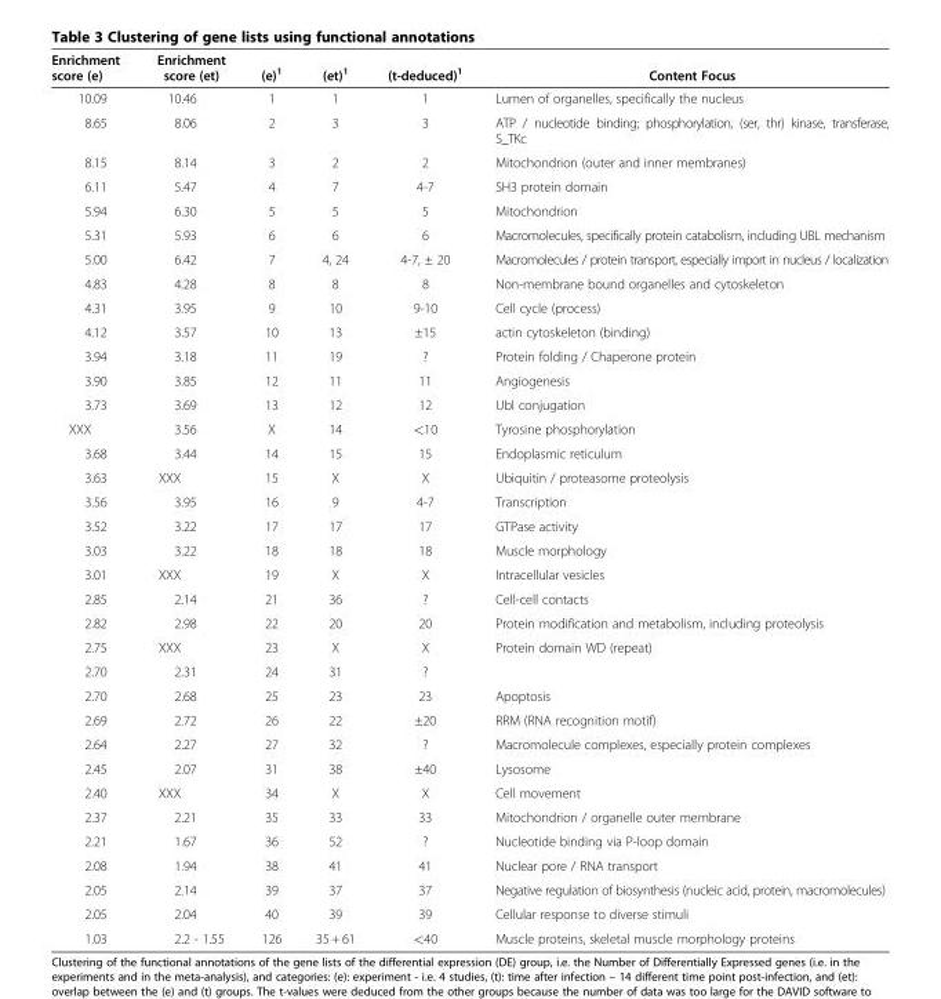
<table><thead><tr><td>Enrichment score (e)</td><td>Enrichment score (et)</td><td>(e)<sup>1</sup></td><td>(et)<sup>1</sup></td><td>(t-deduced)<sup>1</sup></td><td>Content Focus</td></tr></thead><tbody><tr><td>10.09</td><td>10.46</td><td>1</td><td>1</td><td>1</td><td>Lumen of organelles, specifically the nucleus</td></tr><tr><td>8.65</td><td>8.06</td><td>2</td><td>3</td><td>3</td><td>ATP / nucleotide binding; phosphorylation, (ser, thr) kinase, transferase, S_TKc</td></tr><tr><td>8.15</td><td>8.14</td><td>3</td><td>2</td><td>2</td><td>Mitochondrion (outer and inner membranes)</td></tr><tr><td>6.11</td><td>5.47</td><td>4</td><td>7</td><td>4-7</td><td>SH3 protein domain</td></tr><tr><td>5.94</td><td>6.30</td><td>5</td><td>5</td><td>5</td><td>Mitochondrion</td></tr><tr><td>5.31</td><td>5.93</td><td>6</td><td>6</td><td>6</td><td>Macromolecules, specifically protein catabolism, including UBL mechanism</td></tr><tr><td>5.00</td><td>6.42</td><td>7</td><td>4, 24</td><td>4-7, ± 20</td><td>Macromolecules / protein transport, especially import in nucleus / localization</td></tr><tr><td>4.83</td><td>4.28</td><td>8</td><td>8</td><td>8</td><td>Non-membrane bound organelles and cytoskeleton</td></tr><tr><td>4.31</td><td>3.95</td><td>9</td><td>10</td><td>9-10</td><td>Cell cycle (process)</td></tr><tr><td>4.12</td><td>3.57</td><td>10</td><td>13</td><td>±15</td><td>actin cytoskeleton (binding)</td></tr><tr><td>3.94</td><td>3.18</td><td>11</td><td>19</td><td>?</td><td>Protein folding / Chaperone protein</td></tr><tr><td>3.90</td><td>3.85</td><td>12</td><td>11</td><td>11</td><td>Angiogenesis</td></tr><tr><td>3.73</td><td>3.69</td><td>13</td><td>12</td><td>12</td><td>Ubl conjugation</td></tr><tr><td>XXX</td><td>3.56</td><td>X</td><td>14</td><td>&lt;10</td><td>Tyrosine phosphorylation</td></tr><tr><td>3.68</td><td>3.44</td><td>14</td><td>15</td><td>15</td><td>Endoplasmic reticulum</td></tr><tr><td>3.63</td><td>XXX</td><td>15</td><td>X</td><td>X</td><td>Ubiquitin / proteasome proteolysis</td></tr><tr><td>3.56</td><td>3.95</td><td>16</td><td>9</td><td>4-7</td><td>Transcription</td></tr><tr><td>3.52</td><td>3.22</td><td>17</td><td>17</td><td>17</td><td>GTPase activity</td></tr><tr><td>3.03</td><td>3.22</td><td>18</td><td>18</td><td>18</td><td>Muscle morphology</td></tr><tr><td>3.01</td><td>XXX</td><td>19</td><td>X</td><td>X</td><td>Intracellular vesicles</td></tr><tr><td>2.85</td><td>2.14</td><td>21</td><td>36</td><td>?</td><td>Cell-cell contacts</td></tr><tr><td>2.82</td><td>2.98</td><td>22</td><td>20</td><td>20</td><td>Protein modification and metabolism, including proteolysis</td></tr><tr><td>2.75</td><td>XXX</td><td>23</td><td>X</td><td>X</td><td>Protein domain WD (repeat)</td></tr><tr><td>2.70</td><td>2.31</td><td>24</td><td>31</td><td>?</td><td></td></tr><tr><td>2.70</td><td>2.68</td><td>25</td><td>23</td><td>23</td><td>Apoptosis</td></tr><tr><td>2.69</td><td>2.72</td><td>26</td><td>22</td><td>±20</td><td>RRM (RNA recognition motif)</td></tr><tr><td>2.64</td><td>2.27</td><td>27</td><td>32</td><td>?</td><td>Macromolecule complexes, especially protein complexes</td></tr><tr><td>2.45</td><td>2.07</td><td>31</td><td>38</td><td>±40</td><td>Lysosome</td></tr><tr><td>2.40</td><td>XXX</td><td>34</td><td>X</td><td>X</td><td>Cell movement</td></tr><tr><td>2.37</td><td>2.21</td><td>35</td><td>33</td><td>33</td><td>Mitochondrion / organelle outer membrane</td></tr><tr><td>2.21</td><td>1.67</td><td>36</td><td>52</td><td>?</td><td>Nucleotide binding via P-loop domain</td></tr><tr><td>2.08</td><td>1.94</td><td>38</td><td>41</td><td>41</td><td>Nuclear pore / RNA transport</td></tr><tr><td>2.05</td><td>2.14</td><td>39</td><td>37</td><td>37</td><td>Negative regulation of biosynthesis (nucleic acid, protein, macromolecules)</td></tr><tr><td>2.05</td><td>2.04</td><td>40</td><td>39</td><td>39</td><td>Cellular response to diverse stimuli</td></tr><tr><td>1.03</td><td>2.2 - 1.55</td><td>126</td><td>35 + 61</td><td>&lt;40</td><td>Muscle proteins, skeletal muscle morphology proteins</td></tr></tbody></table>